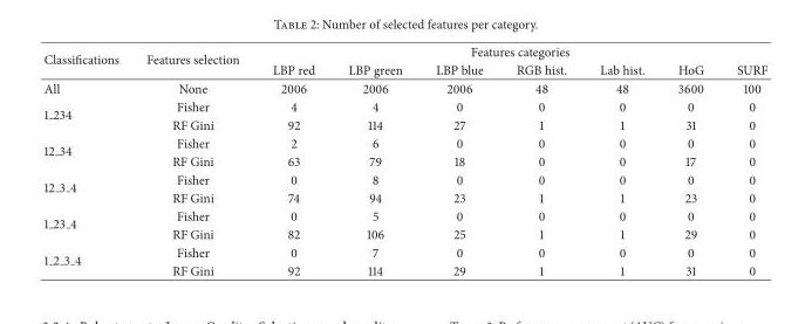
<table><thead><tr><td rowspan="2">Classifications</td><td rowspan="2">Features selection</td><td colspan="7">Features categories</td></tr><tr><td>LBP red</td><td>LBP green</td><td>LBP blue</td><td>RGB hist.</td><td>Lab hist.</td><td>HoG</td><td>SURF</td></tr></thead><tbody><tr><td>All</td><td>None</td><td>2006</td><td>2006</td><td>2006</td><td>48</td><td>48</td><td>3600</td><td>100</td></tr><tr><td rowspan="2">1 234</td><td>Fisher</td><td>4</td><td>4</td><td>0</td><td>0</td><td>0</td><td>0</td><td>0</td></tr><tr><td>RF Gini</td><td>92</td><td>114</td><td>27</td><td>1</td><td>1</td><td>31</td><td>0</td></tr><tr><td rowspan="2">12 34</td><td>Fisher</td><td>2</td><td>6</td><td>0</td><td>0</td><td>0</td><td>0</td><td>0</td></tr><tr><td>RF Gini</td><td>63</td><td>79</td><td>18</td><td>0</td><td>0</td><td>17</td><td>0</td></tr><tr><td rowspan="2">12 <sub>3</sub> 4</td><td>Fisher</td><td>0</td><td>8</td><td>0</td><td>0</td><td>0</td><td>0</td><td>0</td></tr><tr><td>RF Gini</td><td>74</td><td>94</td><td>23</td><td>1</td><td>1</td><td>23</td><td>0</td></tr><tr><td rowspan="2">1 <sub>23</sub> 4</td><td>Fisher</td><td>0</td><td>5</td><td>0</td><td>0</td><td>0</td><td>0</td><td>0</td></tr><tr><td>RF Gini</td><td>82</td><td>106</td><td>25</td><td>1</td><td>1</td><td>29</td><td>0</td></tr><tr><td rowspan="2">1 2 3 4</td><td>Fisher</td><td>0</td><td>7</td><td>0</td><td>0</td><td>0</td><td>0</td><td>0</td></tr><tr><td>RF Gini</td><td>92</td><td>114</td><td>29</td><td>1</td><td>1</td><td>31</td><td>0</td></tr></tbody></table>